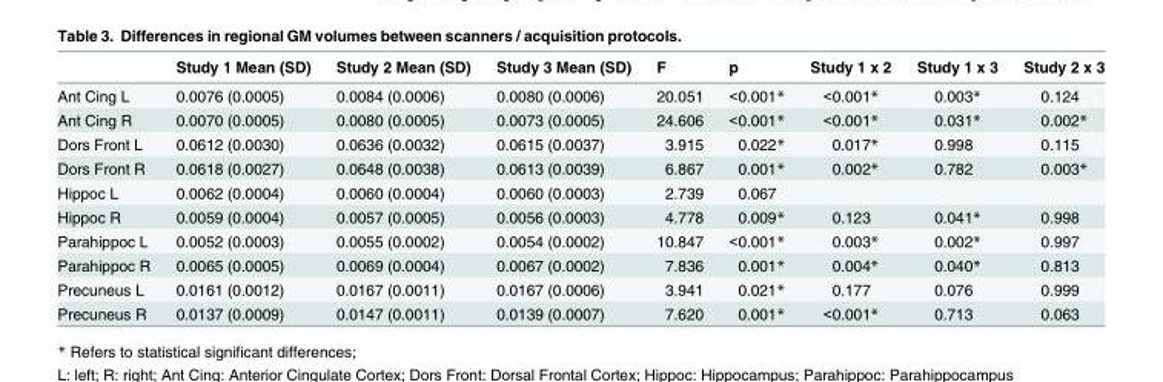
<table><thead><tr><td></td><td>Study 1 Mean (SD)</td><td>Study 2 Mean (SD)</td><td>Study 3 Mean (SD)</td><td>F</td><td>p</td><td>Study 1 x 2</td><td>Study 1 x 3</td><td>Study 2 x 3</td></tr></thead><tbody><tr><td>Ant Cing L</td><td>0.0076 (0.0005)</td><td>0.0084 (0.0006)</td><td>0.0080 (0.0006)</td><td>20.051</td><td>&lt;0.001*</td><td>&lt;0.001*</td><td>0.003*</td><td>0.124</td></tr><tr><td>Ant Cing R</td><td>0.0070 (0.0005)</td><td>0.0080 (0.0005)</td><td>0.0073 (0.0005)</td><td>24.606</td><td>&lt;0.001*</td><td>&lt;0.001*</td><td>0.031*</td><td>0.002*</td></tr><tr><td>Dors Front L</td><td>0.0612 (0.0030)</td><td>0.0636 (0.0032)</td><td>0.0615 (0.0037)</td><td>3.915</td><td>0.022*</td><td>0.017*</td><td>0.998</td><td>0.115</td></tr><tr><td>Dors Front R</td><td>0.0618 (0.0027)</td><td>0.0648 (0.0038)</td><td>0.0613 (0.0039)</td><td>6.867</td><td>0.001*</td><td>0.002*</td><td>0.782</td><td>0.003*</td></tr><tr><td>Hippoc L</td><td>0.0062 (0.0004)</td><td>0.0060 (0.0004)</td><td>0.0060 (0.0003)</td><td>2.739</td><td>0.067</td><td></td><td></td><td></td></tr><tr><td>Hippoc R</td><td>0.0059 (0.0004)</td><td>0.0057 (0.0005)</td><td>0.0056 (0.0003)</td><td>4.778</td><td>0.009*</td><td>0.123</td><td>0.041*</td><td>0.998</td></tr><tr><td>Parahippoc L</td><td>0.0052 (0.0003)</td><td>0.0055 (0.0002)</td><td>0.0054 (0.0002)</td><td>10.847</td><td>&lt;0.001*</td><td>0.003*</td><td>0.002*</td><td>0.997</td></tr><tr><td>Parahippoc R</td><td>0.0065 (0.0005)</td><td>0.0069 (0.0004)</td><td>0.0067 (0.0002)</td><td>7.836</td><td>0.001*</td><td>0.004*</td><td>0.040*</td><td>0.813</td></tr><tr><td>Precuneus L</td><td>0.0161 (0.0012)</td><td>0.0167 (0.0011)</td><td>0.0167 (0.0006)</td><td>3.941</td><td>0.021*</td><td>0.177</td><td>0.076</td><td>0.999</td></tr><tr><td>Precuneus R</td><td>0.0137 (0.0009)</td><td>0.0147 (0.0011)</td><td>0.0139 (0.0007)</td><td>7.620</td><td>0.001*</td><td>&lt;0.001*</td><td>0.713</td><td>0.063</td></tr></tbody></table>